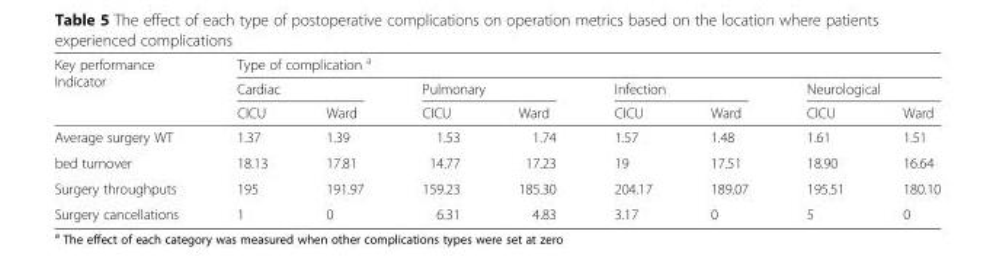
<table><thead><tr><td rowspan="3">Key performance Indicator</td><td colspan="8">Type of complication <sup>a</sup></td></tr><tr><td colspan="2">Cardiac</td><td colspan="2">Pulmonary</td><td colspan="2">Infection</td><td colspan="2">Neurological</td></tr><tr><td>CICU</td><td>Ward</td><td>CICU</td><td>Ward</td><td>CICU</td><td>Ward</td><td>CICU</td><td>Ward</td></tr></thead><tbody><tr><td>Average surgery WT</td><td>1.37</td><td>1.39</td><td>1.53</td><td>1.74</td><td>1.57</td><td>1.48</td><td>1.61</td><td>1.51</td></tr><tr><td>bed turnover</td><td>18.13</td><td>17.81</td><td>14.77</td><td>17.23</td><td>19</td><td>17.51</td><td>18.90</td><td>16.64</td></tr><tr><td>Surgery throughputs</td><td>195</td><td>191.97</td><td>159.23</td><td>185.30</td><td>204.17</td><td>189.07</td><td>195.51</td><td>180.10</td></tr><tr><td>Surgery cancellations</td><td>1</td><td>0</td><td>6.31</td><td>4.83</td><td>3.17</td><td>0</td><td>5</td><td>0</td></tr></tbody></table>